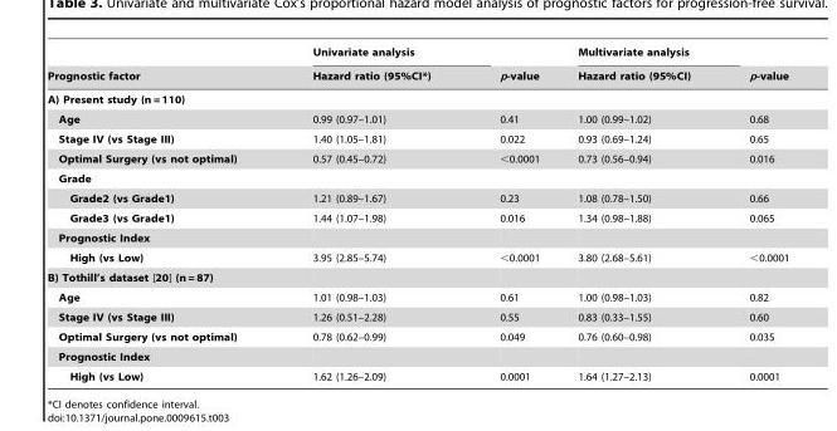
<table><thead><tr><td rowspan="2">Prognostic factor</td><td rowspan="2">Univariate analysis Hazard ratio (95%CI*)</td><td rowspan="2">p-value</td><td rowspan="2">Multivariate analysis Hazard ratio (95%CI)</td><td rowspan="2">p-value</td></tr><tr></tr></thead><tbody><tr><td colspan="5">A) Present study (n = 110)</td></tr><tr><td>Age</td><td>0.99 (0.97–1.01)</td><td>0.41</td><td>1.00 (0.99–1.02)</td><td>0.68</td></tr><tr><td>Stage IV (vs Stage III)</td><td>1.40 (1.05–1.81)</td><td>0.022</td><td>0.93 (0.69–1.24)</td><td>0.65</td></tr><tr><td>Optimal Surgery (vs not optimal)</td><td>0.57 (0.45–0.72)</td><td>&lt;0.0001</td><td>0.73 (0.56–0.94)</td><td>0.016</td></tr><tr><td colspan="5">Grade</td></tr><tr><td>Grade2 (vs Grade1)</td><td>1.21 (0.89–1.67)</td><td>0.23</td><td>1.08 (0.78–1.50)</td><td>0.66</td></tr><tr><td>Grade3 (vs Grade1)</td><td>1.44 (1.07–1.98)</td><td>0.016</td><td>1.34 (0.98–1.88)</td><td>0.065</td></tr><tr><td colspan="5">Prognostic Index</td></tr><tr><td>High (vs Low)</td><td>3.95 (2.85–5.74)</td><td>&lt;0.0001</td><td>3.80 (2.68–5.61)</td><td>&lt;0.0001</td></tr><tr><td colspan="5">B) Tothill’s dataset [20] (n = 87)</td></tr><tr><td>Age</td><td>1.01 (0.98–1.03)</td><td>0.61</td><td>1.00 (0.98–1.03)</td><td>0.82</td></tr><tr><td>Stage IV (vs Stage III)</td><td>1.26 (0.51–2.28)</td><td>0.55</td><td>0.83 (0.33–1.55)</td><td>0.60</td></tr><tr><td>Optimal Surgery (vs not optimal)</td><td>0.78 (0.62–0.99)</td><td>0.049</td><td>0.76 (0.60–0.98)</td><td>0.035</td></tr><tr><td colspan="5">Prognostic Index</td></tr><tr><td>High (vs Low)</td><td>1.62 (1.26–2.09)</td><td>0.0001</td><td>1.64 (1.27–2.13)</td><td>0.0001</td></tr></tbody></table>